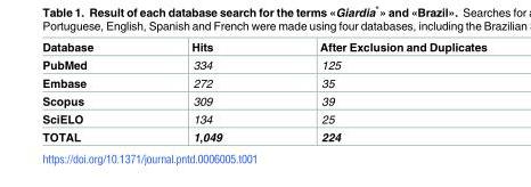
<table><thead><tr><td>Database</td><td>Hits</td><td>After Exclusion and Duplicates</td></tr></thead><tbody><tr><td>PubMed</td><td>334</td><td>125</td></tr><tr><td>Embase</td><td>272</td><td>35</td></tr><tr><td>Scopus</td><td>309</td><td>39</td></tr><tr><td>SciELO</td><td>134</td><td>25</td></tr><tr><td>TOTAL</td><td>1,049</td><td>224</td></tr></tbody></table>